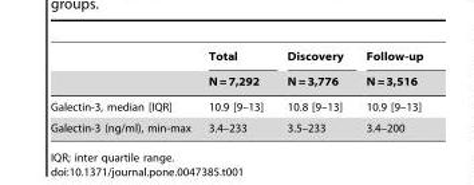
<table><thead><tr><td rowspan="2"></td><td rowspan="2">Total N = 7,292</td><td rowspan="2">Discovery N = 3,776</td><td rowspan="2">Follow-up N = 3,516</td></tr><tr></tr></thead><tbody><tr><td>Galectin-3, median [IQR]</td><td>10.9 [9–13]</td><td>10.8 [9–13]</td><td>10.9 [9–13]</td></tr><tr><td>Galectin-3 (ng/ml), min-max</td><td>3.4–233</td><td>3.5–233</td><td>3.4–200</td></tr></tbody></table>